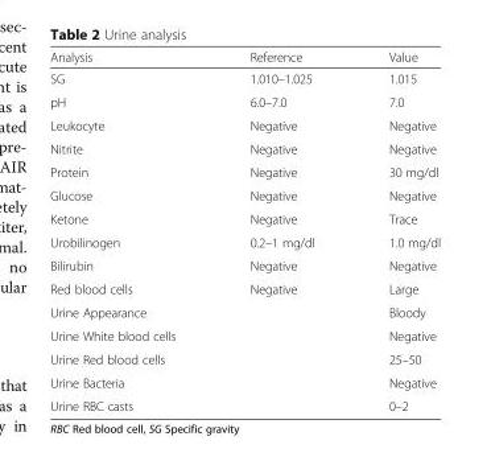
<table><thead><tr><td>Analysis</td><td>Reference</td><td>Value</td></tr></thead><tbody><tr><td>SG</td><td>1.010–1.025</td><td>1.015</td></tr><tr><td>pH</td><td>6.0–7.0</td><td>7.0</td></tr><tr><td>Leukocyte</td><td>Negative</td><td>Negative</td></tr><tr><td>Nitrite</td><td>Negative</td><td>Negative</td></tr><tr><td>Protein</td><td>Negative</td><td>30 mg/dl</td></tr><tr><td>Glucose</td><td>Negative</td><td>Negative</td></tr><tr><td>Ketone</td><td>Negative</td><td>Trace</td></tr><tr><td>Urobilinogen</td><td>0.2–1 mg/dl</td><td>1.0 mg/dl</td></tr><tr><td>Bilirubin</td><td>Negative</td><td>Negative</td></tr><tr><td>Red blood cells</td><td>Negative</td><td>Large</td></tr><tr><td>Urine Appearance</td><td></td><td>Bloody</td></tr><tr><td>Urine White blood cells</td><td></td><td>Negative</td></tr><tr><td>Urine Red blood cells</td><td></td><td>25–50</td></tr><tr><td>Urine Bacteria</td><td></td><td>Negative</td></tr><tr><td>Urine RBC casts</td><td></td><td>0–2</td></tr></tbody></table>